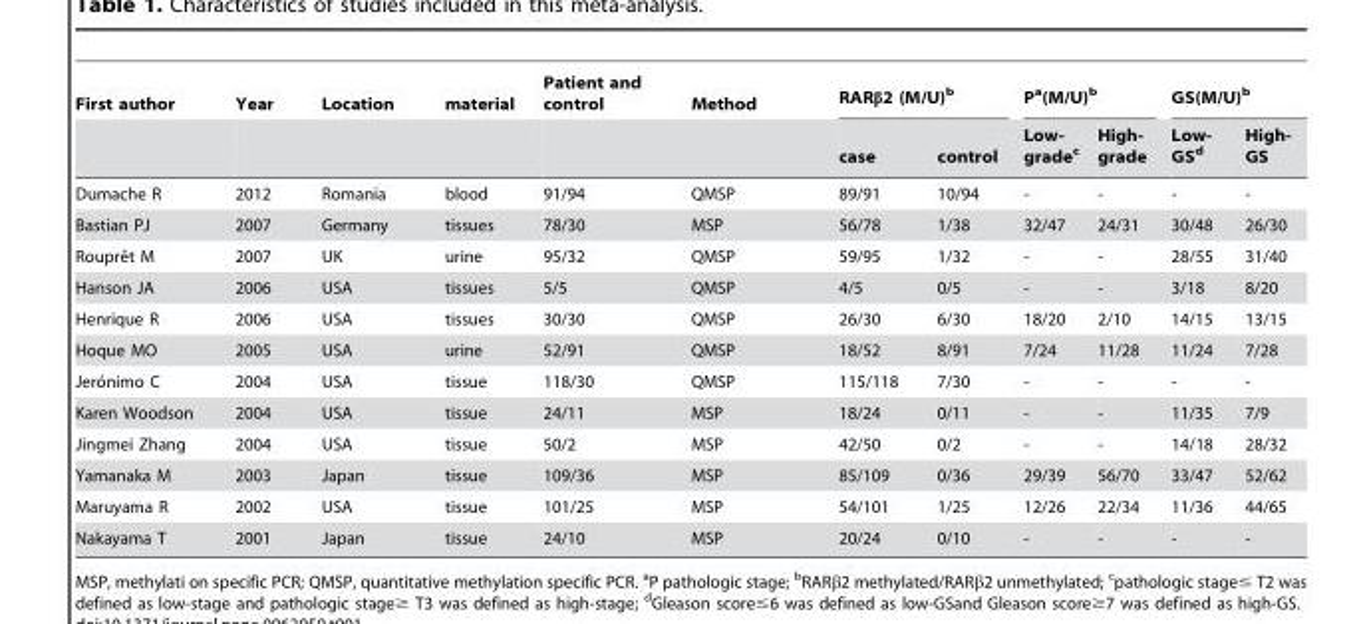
<table><thead><tr><td rowspan="2">First author</td><td rowspan="2">Year</td><td rowspan="2">Location</td><td rowspan="2">material</td><td rowspan="2">Patient and control</td><td rowspan="2">Method</td><td colspan="2">RARβ2 (M/U)<sup>b</sup></td><td colspan="2">P<sup>a</sup>(M/U)<sup>b</sup></td><td colspan="2">GS(M/U)<sup>b</sup></td></tr><tr><td>case</td><td>control</td><td>Low- grade<sup>c</sup></td><td>High- grade</td><td>Low- GS<sup>d</sup></td><td>High- GS</td></tr></thead><tbody><tr><td>Dumache R</td><td>2012</td><td>Romania</td><td>blood</td><td>91/94</td><td>QMSP</td><td>89/91</td><td>10/94</td><td>-</td><td>-</td><td>-</td><td>-</td></tr><tr><td>Bastian PJ</td><td>2007</td><td>Germany</td><td>tissues</td><td>78/30</td><td>MSP</td><td>56/78</td><td>1/38</td><td>32/47</td><td>24/31</td><td>30/48</td><td>26/30</td></tr><tr><td>Roupreˆt M</td><td>2007</td><td>UK</td><td>urine</td><td>95/32</td><td>QMSP</td><td>59/95</td><td>1/32</td><td>-</td><td>-</td><td>28/55</td><td>31/40</td></tr><tr><td>Hanson JA</td><td>2006</td><td>USA</td><td>tissues</td><td>5/5</td><td>QMSP</td><td>4/5</td><td>0/5</td><td>-</td><td>-</td><td>3/18</td><td>8/20</td></tr><tr><td>Henrique R</td><td>2006</td><td>USA</td><td>tissues</td><td>30/30</td><td>QMSP</td><td>26/30</td><td>6/30</td><td>18/20</td><td>2/10</td><td>14/15</td><td>13/15</td></tr><tr><td>Hoque MO</td><td>2005</td><td>USA</td><td>urine</td><td>52/91</td><td>QMSP</td><td>18/52</td><td>8/91</td><td>7/24</td><td>11/28</td><td>11/24</td><td>7/28</td></tr><tr><td>Jero´nimo C</td><td>2004</td><td>USA</td><td>tissue</td><td>118/30</td><td>QMSP</td><td>115/118</td><td>7/30</td><td>-</td><td>-</td><td>-</td><td>-</td></tr><tr><td>Karen Woodson</td><td>2004</td><td>USA</td><td>tissue</td><td>24/11</td><td>MSP</td><td>18/24</td><td>0/11</td><td>-</td><td>-</td><td>11/35</td><td>7/9</td></tr><tr><td>Jingmei Zhang</td><td>2004</td><td>USA</td><td>tissue</td><td>50/2</td><td>MSP</td><td>42/50</td><td>0/2</td><td>-</td><td>-</td><td>14/18</td><td>28/32</td></tr><tr><td>Yamanaka M</td><td>2003</td><td>Japan</td><td>tissue</td><td>109/36</td><td>MSP</td><td>85/109</td><td>0/36</td><td>29/39</td><td>56/70</td><td>33/47</td><td>52/62</td></tr><tr><td>Maruyama R</td><td>2002</td><td>USA</td><td>tissue</td><td>101/25</td><td>MSP</td><td>54/101</td><td>1/25</td><td>12/26</td><td>22/34</td><td>11/36</td><td>44/65</td></tr><tr><td>Nakayama T</td><td>2001</td><td>Japan</td><td>tissue</td><td>24/10</td><td>MSP</td><td>20/24</td><td>0/10</td><td>-</td><td>-</td><td>-</td><td>-</td></tr></tbody></table>